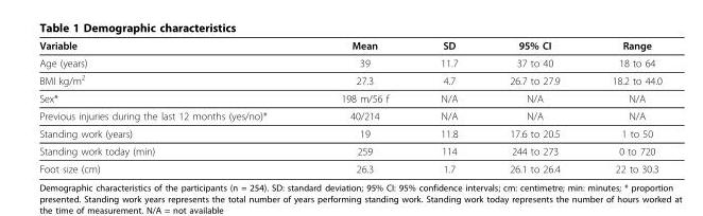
<table><thead><tr><td>Variable</td><td>Mean</td><td>SD</td><td>95% CI</td><td>Range</td></tr></thead><tbody><tr><td>Age (years)</td><td>39</td><td>11.7</td><td>37 to 40</td><td>18 to 64</td></tr><tr><td>BMI kg/m<sup>2</sup></td><td>27.3</td><td>4.7</td><td>26.7 to 27.9</td><td>18.2 to 44.0</td></tr><tr><td>Sex*</td><td>198 m/56 f</td><td>N/A</td><td>N/A</td><td>N/A</td></tr><tr><td>Previous injuries during the last 12 months (yes/no)*</td><td>40/214</td><td>N/A</td><td>N/A</td><td>N/A</td></tr><tr><td>Standing work (years)</td><td>19</td><td>11.8</td><td>17.6 to 20.5</td><td>1 to 50</td></tr><tr><td>Standing work today (min)</td><td>259</td><td>114</td><td>244 to 273</td><td>0 to 720</td></tr><tr><td>Foot size (cm)</td><td>26.3</td><td>1.7</td><td>26.1 to 26.4</td><td>22 to 30.3</td></tr></tbody></table>